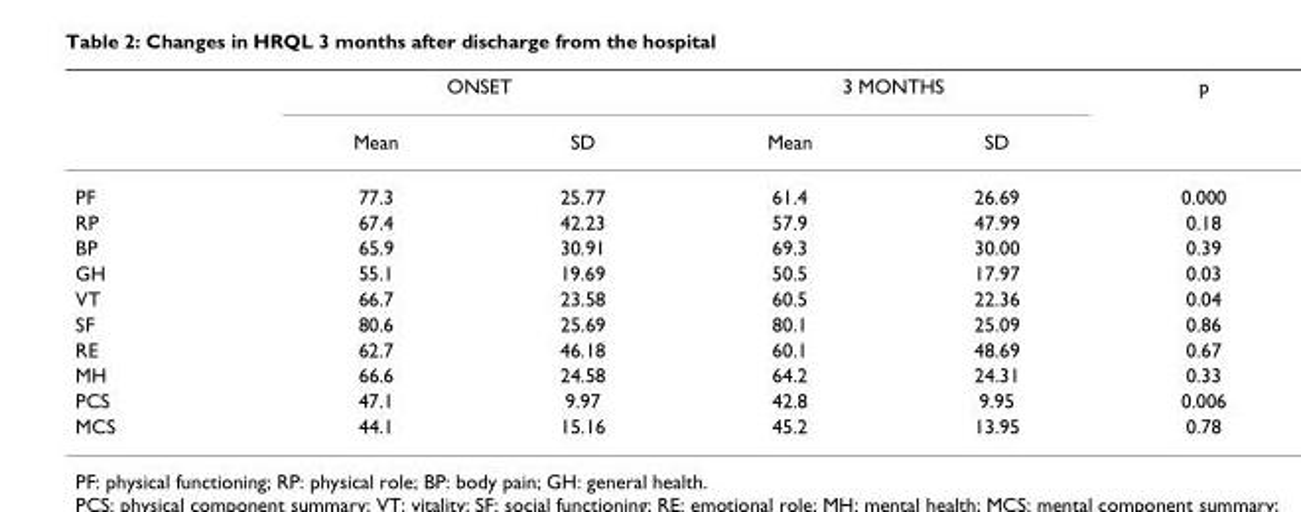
<table><thead><tr><td rowspan="2"></td><td colspan="2">ONSET</td><td colspan="2">3 MONTHS</td><td rowspan="2">p</td></tr><tr><td>Mean</td><td>SD</td><td>Mean</td><td>SD</td></tr></thead><tbody><tr><td>PF</td><td>77.3</td><td>25.77</td><td>61.4</td><td>26.69</td><td>0.000</td></tr><tr><td>RP</td><td>67.4</td><td>42.23</td><td>57.9</td><td>47.99</td><td>0.18</td></tr><tr><td>BP</td><td>65.9</td><td>30.91</td><td>69.3</td><td>30.00</td><td>0.39</td></tr><tr><td>GH</td><td>55.1</td><td>19.69</td><td>50.5</td><td>17.97</td><td>0.03</td></tr><tr><td>VT</td><td>66.7</td><td>23.58</td><td>60.5</td><td>22.36</td><td>0.04</td></tr><tr><td>SF</td><td>80.6</td><td>25.69</td><td>80.1</td><td>25.09</td><td>0.86</td></tr><tr><td>RE</td><td>62.7</td><td>46.18</td><td>60.1</td><td>48.69</td><td>0.67</td></tr><tr><td>MH</td><td>66.6</td><td>24.58</td><td>64.2</td><td>24.31</td><td>0.33</td></tr><tr><td>PCS</td><td>47.1</td><td>9.97</td><td>42.8</td><td>9.95</td><td>0.006</td></tr><tr><td>MCS</td><td>44.1</td><td>15.16</td><td>45.2</td><td>13.95</td><td>0.78</td></tr></tbody></table>